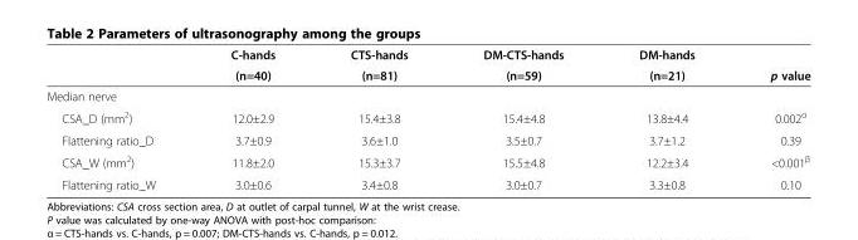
<table><thead><tr><td rowspan="2"></td><td rowspan="2">C-hands (n=40)</td><td rowspan="2">CTS-hands (n=81)</td><td rowspan="2">DM-CTS-hands (n=59)</td><td rowspan="2">DM-hands (n=21)</td><td rowspan="2">p value</td></tr><tr></tr></thead><tbody><tr><td colspan="6">Median nerve</td></tr><tr><td>CSA_D (mm<sup>2</sup>)</td><td>12.0±2.9</td><td>15.4±3.8</td><td>15.4±4.8</td><td>13.8±4.4</td><td>0.002<sup>α</sup></td></tr><tr><td>Flattening ratio_D</td><td>3.7±0.9</td><td>3.6±1.0</td><td>3.5±0.7</td><td>3.7±1.2</td><td>0.39</td></tr><tr><td>CSA_W (mm<sup>2</sup>)</td><td>11.8±2.0</td><td>15.3±3.7</td><td>15.5±4.8</td><td>12.2±3.4</td><td>&lt;0.001<sup>β</sup></td></tr><tr><td>Flattening ratio_W</td><td>3.0±0.6</td><td>3.4±0.8</td><td>3.0±0.7</td><td>3.3±0.8</td><td>0.10</td></tr></tbody></table>